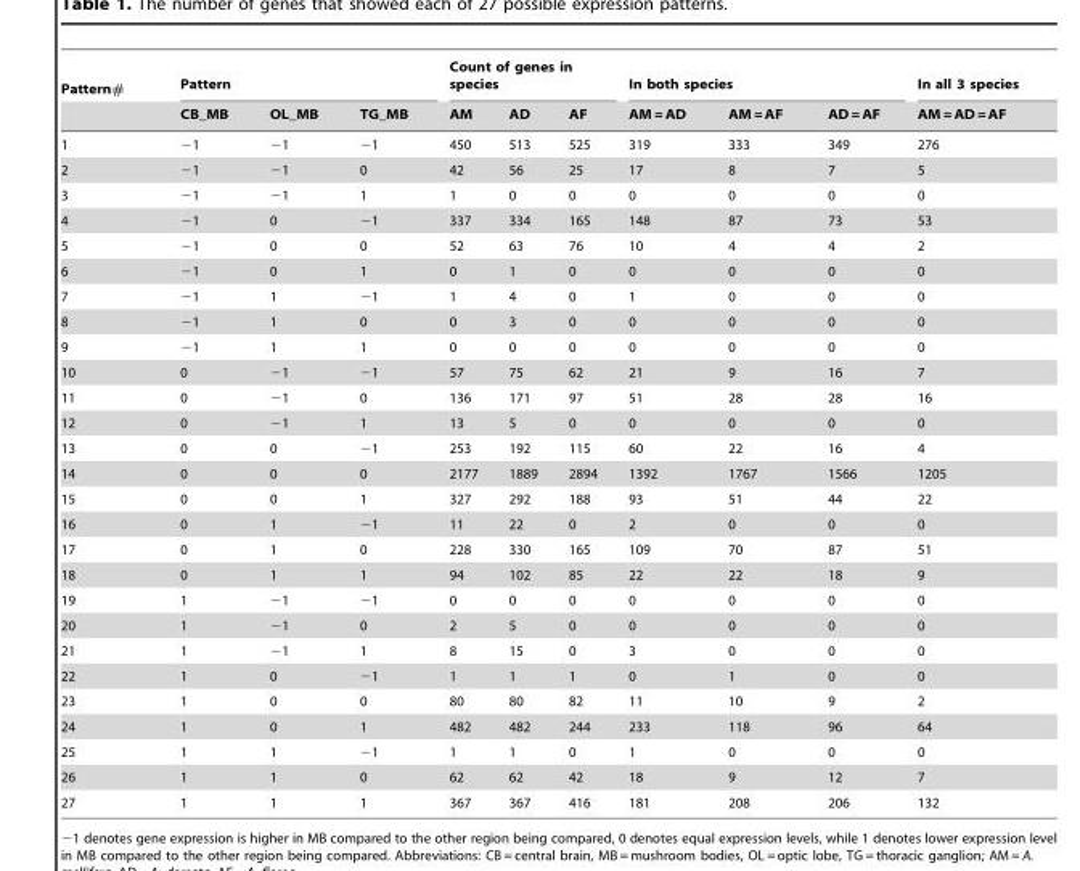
<table><thead><tr><td rowspan="2">Pattern#</td><td colspan="3">Pattern</td><td colspan="3">Count of genes in species</td><td colspan="3">In both species</td><td rowspan="2">In all 3 species AM = AD = AF</td></tr><tr><td>CB_MB</td><td>OL_MB</td><td>TG_MB</td><td>AM</td><td>AD</td><td>AF</td><td>AM = AD</td><td>AM = AF</td><td>AD = AF</td></tr></thead><tbody><tr><td>1</td><td>−1</td><td>−1</td><td>−1</td><td>450</td><td>513</td><td>525</td><td>319</td><td>333</td><td>349</td><td>276</td></tr><tr><td>2</td><td>−1</td><td>−1</td><td>0</td><td>42</td><td>56</td><td>25</td><td>17</td><td>8</td><td>7</td><td>5</td></tr><tr><td>3</td><td>−1</td><td>−1</td><td>1</td><td>1</td><td>0</td><td>0</td><td>0</td><td>0</td><td>0</td><td>0</td></tr><tr><td>4</td><td>−1</td><td>0</td><td>−1</td><td>337</td><td>334</td><td>165</td><td>148</td><td>87</td><td>73</td><td>53</td></tr><tr><td>5</td><td>−1</td><td>0</td><td>0</td><td>52</td><td>63</td><td>76</td><td>10</td><td>4</td><td>4</td><td>2</td></tr><tr><td>6</td><td>−1</td><td>0</td><td>1</td><td>0</td><td>1</td><td>0</td><td>0</td><td>0</td><td>0</td><td>0</td></tr><tr><td>7</td><td>−1</td><td>1</td><td>−1</td><td>1</td><td>4</td><td>0</td><td>1</td><td>0</td><td>0</td><td>0</td></tr><tr><td>8</td><td>−1</td><td>1</td><td>0</td><td>0</td><td>3</td><td>0</td><td>0</td><td>0</td><td>0</td><td>0</td></tr><tr><td>9</td><td>−1</td><td>1</td><td>1</td><td>0</td><td>0</td><td>0</td><td>0</td><td>0</td><td>0</td><td>0</td></tr><tr><td>10</td><td>0</td><td>−1</td><td>−1</td><td>57</td><td>75</td><td>62</td><td>21</td><td>9</td><td>16</td><td>7</td></tr><tr><td>11</td><td>0</td><td>−1</td><td>0</td><td>136</td><td>171</td><td>97</td><td>51</td><td>28</td><td>28</td><td>16</td></tr><tr><td>12</td><td>0</td><td>−1</td><td>1</td><td>13</td><td>5</td><td>0</td><td>0</td><td>0</td><td>0</td><td>0</td></tr><tr><td>13</td><td>0</td><td>0</td><td>−1</td><td>253</td><td>192</td><td>115</td><td>60</td><td>22</td><td>16</td><td>4</td></tr><tr><td>14</td><td>0</td><td>0</td><td>0</td><td>2177</td><td>1889</td><td>2894</td><td>1392</td><td>1767</td><td>1566</td><td>1205</td></tr><tr><td>15</td><td>0</td><td>0</td><td>1</td><td>327</td><td>292</td><td>188</td><td>93</td><td>51</td><td>44</td><td>22</td></tr><tr><td>16</td><td>0</td><td>1</td><td>−1</td><td>11</td><td>22</td><td>0</td><td>2</td><td>0</td><td>0</td><td>0</td></tr><tr><td>17</td><td>0</td><td>1</td><td>0</td><td>228</td><td>330</td><td>165</td><td>109</td><td>70</td><td>87</td><td>51</td></tr><tr><td>18</td><td>0</td><td>1</td><td>1</td><td>94</td><td>102</td><td>85</td><td>22</td><td>22</td><td>18</td><td>9</td></tr><tr><td>19</td><td>1</td><td>−1</td><td>−1</td><td>0</td><td>0</td><td>0</td><td>0</td><td>0</td><td>0</td><td>0</td></tr><tr><td>20</td><td>1</td><td>−1</td><td>0</td><td>2</td><td>5</td><td>0</td><td>0</td><td>0</td><td>0</td><td>0</td></tr><tr><td>21</td><td>1</td><td>−1</td><td>1</td><td>8</td><td>15</td><td>0</td><td>3</td><td>0</td><td>0</td><td>0</td></tr><tr><td>22</td><td>1</td><td>0</td><td>−1</td><td>1</td><td>1</td><td>1</td><td>0</td><td>1</td><td>0</td><td>0</td></tr><tr><td>23</td><td>1</td><td>0</td><td>0</td><td>80</td><td>80</td><td>82</td><td>11</td><td>10</td><td>9</td><td>2</td></tr><tr><td>24</td><td>1</td><td>0</td><td>1</td><td>482</td><td>482</td><td>244</td><td>233</td><td>118</td><td>96</td><td>64</td></tr><tr><td>25</td><td>1</td><td>1</td><td>−1</td><td>1</td><td>1</td><td>0</td><td>1</td><td>0</td><td>0</td><td>0</td></tr><tr><td>26</td><td>1</td><td>1</td><td>0</td><td>62</td><td>62</td><td>42</td><td>18</td><td>9</td><td>12</td><td>7</td></tr><tr><td>27</td><td>1</td><td>1</td><td>1</td><td>367</td><td>367</td><td>416</td><td>181</td><td>208</td><td>206</td><td>132</td></tr></tbody></table>